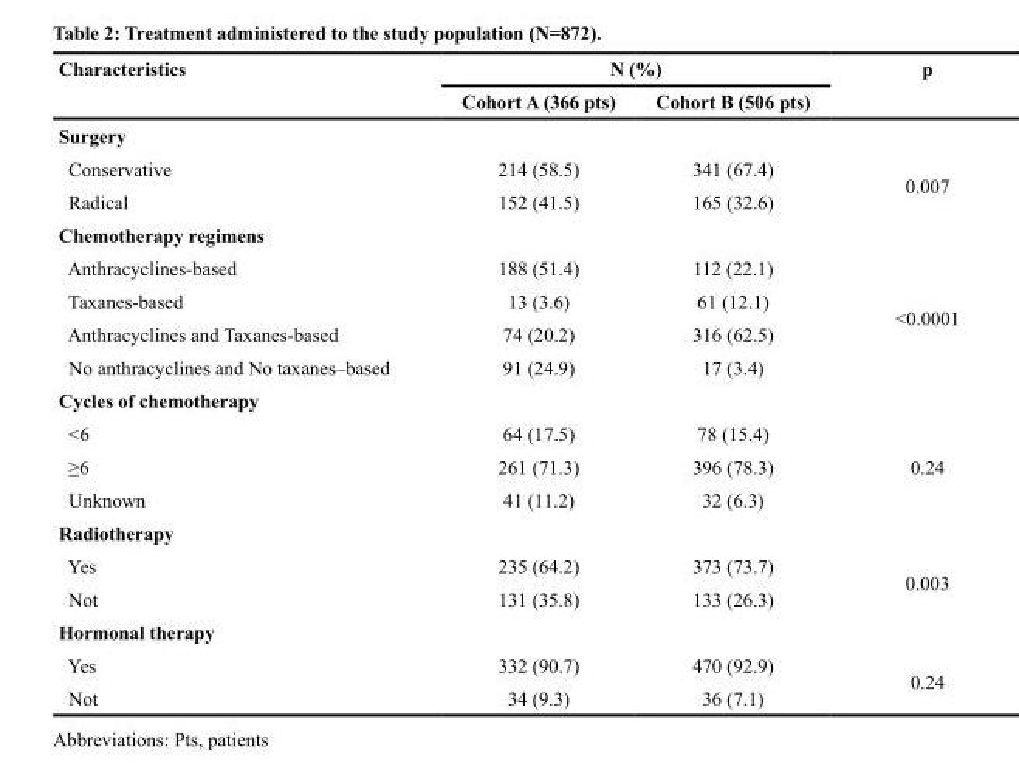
<table><thead><tr><td rowspan="2">Characteristics</td><td colspan="2">N (%)</td><td rowspan="2">p</td></tr><tr><td>Cohort A (366 pts)</td><td>Cohort B (506 pts)</td></tr></thead><tbody><tr><td colspan="4">Surgery</td></tr><tr><td>Conservative</td><td>214 (58.5)</td><td>341 (67.4)</td><td rowspan="2">0.007</td></tr><tr><td>Radical</td><td>152 (41.5)</td><td>165 (32.6)</td></tr><tr><td colspan="4">Chemotherapy regimens</td></tr><tr><td>Anthracyclines-based</td><td>188 (51.4)</td><td>112 (22.1)</td><td rowspan="4">&lt;0.0001</td></tr><tr><td>Taxanes-based</td><td>13 (3.6)</td><td>61 (12.1)</td></tr><tr><td>Anthracyclines and Taxanes-based</td><td>74 (20.2)</td><td>316 (62.5)</td></tr><tr><td>No anthracyclines and No taxanes–based</td><td>91 (24.9)</td><td>17 (3.4)</td></tr><tr><td colspan="4">Cycles of chemotherapy</td></tr><tr><td>&lt;6</td><td>64 (17.5)</td><td>78 (15.4)</td><td rowspan="3">0.24</td></tr><tr><td>≥6</td><td>261 (71.3)</td><td>396 (78.3)</td></tr><tr><td>Unknown</td><td>41 (11.2)</td><td>32 (6.3)</td></tr><tr><td colspan="4">Radiotherapy</td></tr><tr><td>Yes</td><td>235 (64.2)</td><td>373 (73.7)</td><td rowspan="2">0.003</td></tr><tr><td>Not</td><td>131 (35.8)</td><td>133 (26.3)</td></tr><tr><td colspan="4">Hormonal therapy</td></tr><tr><td>Yes</td><td>332 (90.7)</td><td>470 (92.9)</td><td rowspan="2">0.24</td></tr><tr><td>Not</td><td>34 (9.3)</td><td>36 (7.1)</td></tr></tbody></table>